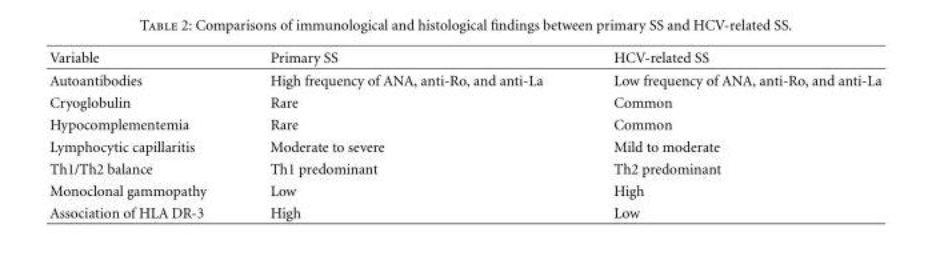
<table><thead><tr><td>Variable</td><td>Primary SS</td><td>HCV-related SS</td></tr></thead><tbody><tr><td>Autoantibodies</td><td>High frequency of ANA, anti-Ro, and anti-La</td><td>Low frequency of ANA, anti-Ro, and anti-La</td></tr><tr><td>Cryoglobulin</td><td>Rare</td><td>Common</td></tr><tr><td>Hypocomplementemia</td><td>Rare</td><td>Common</td></tr><tr><td>Lymphocytic capillaritis</td><td>Moderate to severe</td><td>Mild to moderate</td></tr><tr><td>Th1/Th2 balance</td><td>Th1 predominant</td><td>Th2 predominant</td></tr><tr><td>Monoclonal gammopathy</td><td>Low</td><td>High</td></tr><tr><td>Association of HLA DR-3</td><td>High</td><td>Low</td></tr></tbody></table>